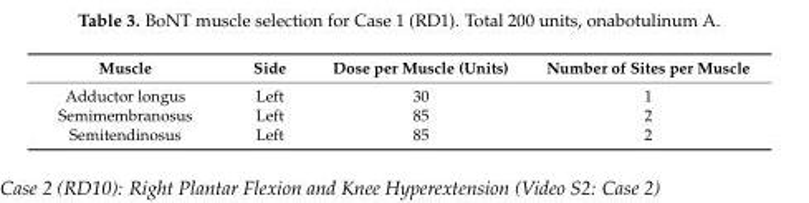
<table><thead><tr><td>Muscle</td><td>Side</td><td>Dose per Muscle (Units)</td><td>Number of Sites per Muscle</td></tr></thead><tbody><tr><td>Adductor longus</td><td>Left</td><td>30</td><td>1</td></tr><tr><td>Semimembranosus</td><td>Left</td><td>85</td><td>2</td></tr><tr><td>Semitendinosus</td><td>Left</td><td>85</td><td>2</td></tr></tbody></table>